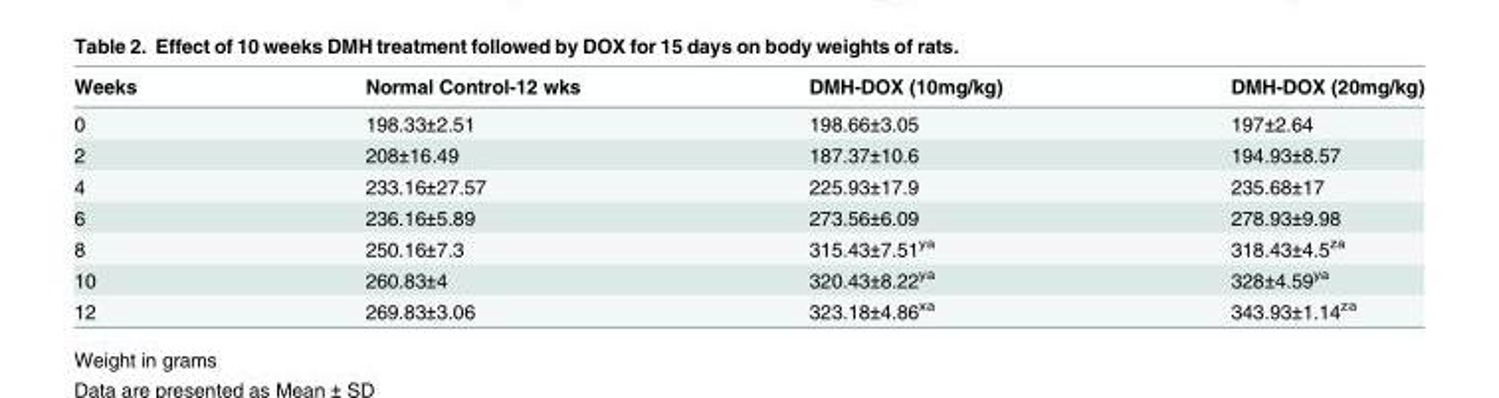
<table><thead><tr><td>Weeks</td><td>Normal Control-12 wks</td><td>DMH-DOX (10mg/kg)</td><td>DMH-DOX (20mg/kg)</td></tr></thead><tbody><tr><td>0</td><td>198.33±2.51</td><td>198.66±3.05</td><td>197±2.64</td></tr><tr><td>2</td><td>208±16.49</td><td>187.37±10.6</td><td>194.93±8.57</td></tr><tr><td>4</td><td>233.16±27.57</td><td>225.93±17.9</td><td>235.68±17</td></tr><tr><td>6</td><td>236.16±5.89</td><td>273.56±6.09</td><td>278.93±9.98</td></tr><tr><td>8</td><td>250.16±7.3</td><td>315.43±7.51<sup>ya</sup></td><td>318.43±4.5<sup>za</sup></td></tr><tr><td>10</td><td>260.83±4</td><td>320.43±8.22<sup>ya</sup></td><td>328±4.59<sup>ya</sup></td></tr><tr><td>12</td><td>269.83±3.06</td><td>323.18±4.86<sup>xa</sup></td><td>343.93±1.14<sup>za</sup></td></tr></tbody></table>